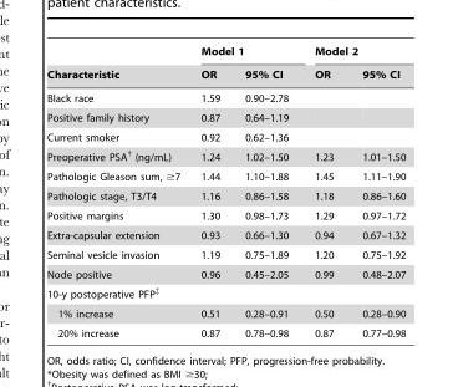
<table><thead><tr><td rowspan="2">Characteristic</td><td colspan="2">Model 1</td><td colspan="2">Model 2</td></tr><tr><td>OR</td><td>95% CI</td><td>OR</td><td>95% CI</td></tr></thead><tbody><tr><td>Black race</td><td>1.59</td><td>0.90–2.78</td><td></td><td></td></tr><tr><td>Positive family history</td><td>0.87</td><td>0.64–1.19</td><td></td><td></td></tr><tr><td>Current smoker</td><td>0.92</td><td>0.62–1.36</td><td></td><td></td></tr><tr><td>Preoperative PSA† (ng/mL)</td><td>1.24</td><td>1.02–1.50</td><td>1.23</td><td>1.01–1.50</td></tr><tr><td>Pathologic Gleason sum, ≥7</td><td>1.44</td><td>1.10–1.88</td><td>1.45</td><td>1.11–1.90</td></tr><tr><td>Pathologic stage, T3/T4</td><td>1.16</td><td>0.86–1.58</td><td>1.18</td><td>0.86–1.60</td></tr><tr><td>Positive margins</td><td>1.30</td><td>0.98–1.73</td><td>1.29</td><td>0.97–1.72</td></tr><tr><td>Extra-capsular extension</td><td>0.93</td><td>0.66–1.30</td><td>0.94</td><td>0.67–1.32</td></tr><tr><td>Seminal vesicle invasion</td><td>1.19</td><td>0.75–1.89</td><td>1.20</td><td>0.75–1.92</td></tr><tr><td>Node positive</td><td>0.96</td><td>0.45–2.05</td><td>0.99</td><td>0.48–2.07</td></tr><tr><td colspan="5">10-y postoperative PFP‡</td></tr><tr><td>1% increase</td><td>0.51</td><td>0.28–0.91</td><td>0.50</td><td>0.28–0.90</td></tr><tr><td>20% increase</td><td>0.87</td><td>0.78–0.98</td><td>0.87</td><td>0.77–0.98</td></tr></tbody></table>